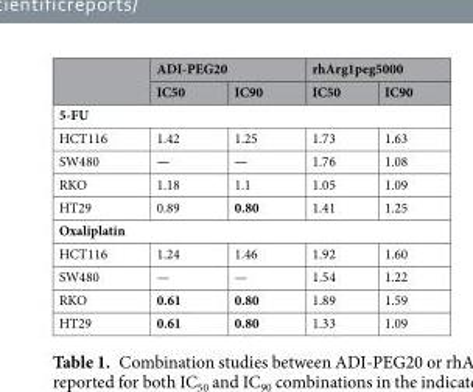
<table><thead><tr><td rowspan="2"></td><td colspan="2">ADI-PEG20</td><td colspan="2">rhArg1peg5000</td></tr><tr><td>IC50</td><td>IC90</td><td>IC50</td><td>IC90</td></tr></thead><tbody><tr><td colspan="5">5-FU</td></tr><tr><td>HCT116</td><td>1.42</td><td>1.25</td><td>1.73</td><td>1.63</td></tr><tr><td>SW480</td><td>—</td><td>—</td><td>1.76</td><td>1.08</td></tr><tr><td>RKO</td><td>1.18</td><td>1.1</td><td>1.05</td><td>1.09</td></tr><tr><td>HT29</td><td>0.89</td><td>0.80</td><td>1.41</td><td>1.25</td></tr><tr><td colspan="5">Oxaliplatin</td></tr><tr><td>HCT116</td><td>1.24</td><td>1.46</td><td>1.92</td><td>1.60</td></tr><tr><td>SW480</td><td>—</td><td>—</td><td>1.54</td><td>1.22</td></tr><tr><td>RKO</td><td>0.61</td><td>0.80</td><td>1.89</td><td>1.59</td></tr><tr><td>HT29</td><td>0.61</td><td>0.80</td><td>1.33</td><td>1.09</td></tr></tbody></table>